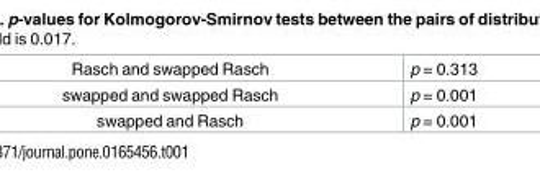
<table><tbody><tr><td>Rasch and swapped Rasch</td><td>p = 0.313</td></tr><tr><td>swapped and swapped Rasch</td><td>p = 0.001</td></tr><tr><td>swapped and Rasch</td><td>p = 0.001</td></tr></tbody></table>